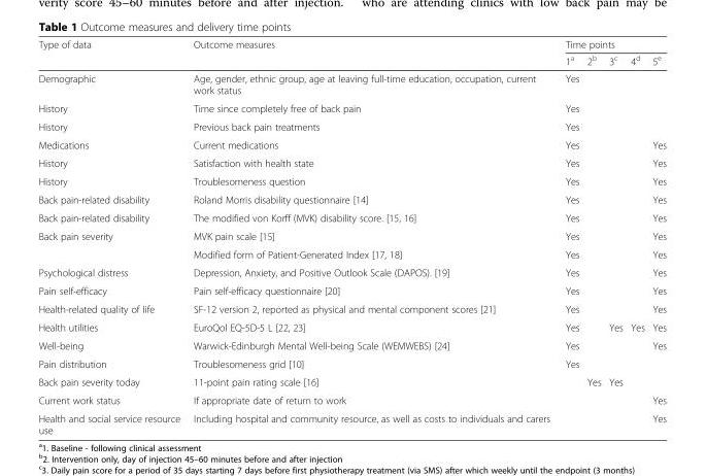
<table><thead><tr><td rowspan="2">Type of data</td><td rowspan="2">Outcome measures</td><td colspan="5">Time points</td></tr><tr><td>1<sup>a</sup></td><td>2<sup>b</sup></td><td>3<sup>c</sup></td><td>4<sup>d</sup></td><td>5<sup>e</sup></td></tr></thead><tbody><tr><td>Demographic</td><td>Age, gender, ethnic group, age at leaving full-time education, occupation, current work status</td><td>Yes</td><td></td><td></td><td></td><td></td></tr><tr><td>History</td><td>Time since completely free of back pain</td><td>Yes</td><td></td><td></td><td></td><td></td></tr><tr><td>History</td><td>Previous back pain treatments</td><td>Yes</td><td></td><td></td><td></td><td></td></tr><tr><td>Medications</td><td>Current medications</td><td>Yes</td><td></td><td></td><td></td><td>Yes</td></tr><tr><td>History</td><td>Satisfaction with health state</td><td>Yes</td><td></td><td></td><td></td><td>Yes</td></tr><tr><td>History</td><td>Troublesomeness question</td><td>Yes</td><td></td><td></td><td></td><td>Yes</td></tr><tr><td>Back pain-related disability</td><td>Roland Morris disability questionnaire [14]</td><td>Yes</td><td></td><td></td><td></td><td>Yes</td></tr><tr><td>Back pain-related disability</td><td>The modified von Korff (MVK) disability score. [15, 16]</td><td>Yes</td><td></td><td></td><td></td><td>Yes</td></tr><tr><td rowspan="2">Back pain severity</td><td>MVK pain scale [15]</td><td>Yes</td><td></td><td></td><td></td><td>Yes</td></tr><tr><td>Modified form of Patient-Generated Index [17, 18]</td><td>Yes</td><td></td><td></td><td></td><td>Yes</td></tr><tr><td>Psychological distress</td><td>Depression, Anxiety, and Positive Outlook Scale (DAPOS). [19]</td><td>Yes</td><td></td><td></td><td></td><td>Yes</td></tr><tr><td>Pain self-efficacy</td><td>Pain self-efficacy questionnaire [20]</td><td>Yes</td><td></td><td></td><td></td><td>Yes</td></tr><tr><td>Health-related quality of life</td><td>SF-12 version 2, reported as physical and mental component scores [21]</td><td>Yes</td><td></td><td></td><td></td><td>Yes</td></tr><tr><td>Health utilities</td><td>EuroQol EQ-5D-5 L [22, 23]</td><td>Yes</td><td></td><td>Yes</td><td>Yes</td><td>Yes</td></tr><tr><td>Well-being</td><td>Warwick-Edinburgh Mental Well-being Scale (WEMWEBS) [24]</td><td>Yes</td><td></td><td></td><td></td><td>Yes</td></tr><tr><td>Pain distribution</td><td>Troublesomeness grid [10]</td><td>Yes</td><td></td><td></td><td></td><td></td></tr><tr><td>Back pain severity today</td><td>11-point pain rating scale [16]</td><td></td><td>Yes</td><td>Yes</td><td></td><td></td></tr><tr><td>Current work status</td><td>If appropriate date of return to work</td><td></td><td></td><td></td><td></td><td>Yes</td></tr><tr><td>Health and social service resource use</td><td>Including hospital and community resource, as well as costs to individuals and carers</td><td></td><td></td><td></td><td></td><td>Yes</td></tr></tbody></table>